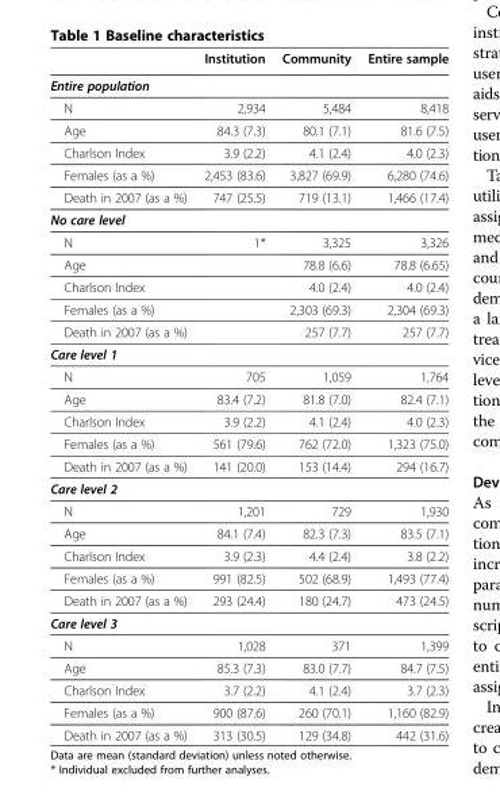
<table><thead><tr><td></td><td>Institution</td><td>Community</td><td>Entire sample</td></tr></thead><tbody><tr><td colspan="4">Entire population</td></tr><tr><td>N</td><td>2,934</td><td>5,484</td><td>8,418</td></tr><tr><td>Age</td><td>84.3 (7.3)</td><td>80.1 (7.1)</td><td>81.6 (7.5)</td></tr><tr><td>Charlson Index</td><td>3.9 (2.2)</td><td>4.1 (2.4)</td><td>4.0 (2.3)</td></tr><tr><td>Females (as a %)</td><td>2,453 (83.6)</td><td>3,827 (69.9)</td><td>6,280 (74.6)</td></tr><tr><td>Death in 2007 (as a %)</td><td>747 (25.5)</td><td>719 (13.1)</td><td>1,466 (17.4)</td></tr><tr><td colspan="4">No care level</td></tr><tr><td>N</td><td>1*</td><td>3,325</td><td>3,326</td></tr><tr><td>Age</td><td></td><td>78.8 (6.6)</td><td>78.8 (6.65)</td></tr><tr><td>Charlson Index</td><td></td><td>4.0 (2.4)</td><td>4.0 (2.4)</td></tr><tr><td>Females (as a %)</td><td></td><td>2,303 (69.3)</td><td>2,304 (69.3)</td></tr><tr><td>Death in 2007 (as a %)</td><td></td><td>257 (7.7)</td><td>257 (7.7)</td></tr><tr><td colspan="4">Care level 1</td></tr><tr><td>N</td><td>705</td><td>1,059</td><td>1,764</td></tr><tr><td>Age</td><td>83.4 (7.2)</td><td>81.8 (7.0)</td><td>82.4 (7.1)</td></tr><tr><td>Charlson Index</td><td>3.9 (2.2)</td><td>4.1 (2.4)</td><td>4.0 (2.3)</td></tr><tr><td>Females (as a %)</td><td>561 (79.6)</td><td>762 (72.0)</td><td>1,323 (75.0)</td></tr><tr><td>Death in 2007 (as a %)</td><td>141 (20.0)</td><td>153 (14.4)</td><td>294 (16.7)</td></tr><tr><td colspan="4">Care level 2</td></tr><tr><td>N</td><td>1,201</td><td>729</td><td>1,930</td></tr><tr><td>Age</td><td>84.1 (7.4)</td><td>82.3 (7.3)</td><td>83.5 (7.1)</td></tr><tr><td>Charlson Index</td><td>3.9 (2.3)</td><td>4.4 (2.4)</td><td>3.8 (2.2)</td></tr><tr><td>Females (as a %)</td><td>991 (82.5)</td><td>502 (68.9)</td><td>1,493 (77.4)</td></tr><tr><td>Death in 2007 (as a %)</td><td>293 (24.4)</td><td>180 (24.7)</td><td>473 (24.5)</td></tr><tr><td colspan="4">Care level 3</td></tr><tr><td>N</td><td>1,028</td><td>371</td><td>1,399</td></tr><tr><td>Age</td><td>85.3 (7.3)</td><td>83.0 (7.7)</td><td>84.7 (7.5)</td></tr><tr><td>Charlson Index</td><td>3.7 (2.2)</td><td>4.1 (2.4)</td><td>3.7 (2.3)</td></tr><tr><td>Females (as a %)</td><td>900 (87.6)</td><td>260 (70.1)</td><td>1,160 (82.9)</td></tr><tr><td>Death in 2007 (as a %)</td><td>313 (30.5)</td><td>129 (34.8)</td><td>442 (31.6)</td></tr></tbody></table>